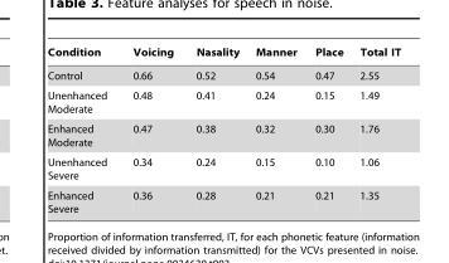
<table><thead><tr><td>Condition</td><td>Voicing</td><td>Nasality</td><td>Manner</td><td>Place</td><td>Total IT</td></tr></thead><tbody><tr><td>Control</td><td>0.66</td><td>0.52</td><td>0.54</td><td>0.47</td><td>2.55</td></tr><tr><td>Unenhanced Moderate</td><td>0.48</td><td>0.41</td><td>0.24</td><td>0.15</td><td>1.49</td></tr><tr><td>Enhanced Moderate</td><td>0.47</td><td>0.38</td><td>0.32</td><td>0.30</td><td>1.76</td></tr><tr><td>Unenhanced Severe</td><td>0.34</td><td>0.24</td><td>0.15</td><td>0.10</td><td>1.06</td></tr><tr><td>Enhanced Severe</td><td>0.36</td><td>0.28</td><td>0.21</td><td>0.21</td><td>1.35</td></tr></tbody></table>